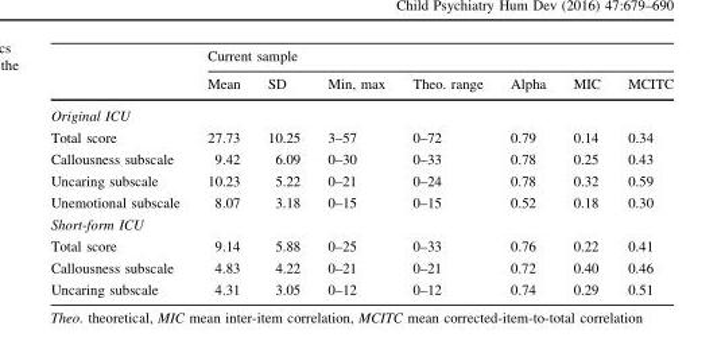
<table><thead><tr><td rowspan="2"></td><td colspan="7">Current sample</td></tr><tr><td>Mean</td><td>SD</td><td>Min, max</td><td>Theo. range</td><td>Alpha</td><td>MIC</td><td>MCITC</td></tr></thead><tbody><tr><td colspan="8">Original ICU</td></tr><tr><td>Total score</td><td>27.73</td><td>10.25</td><td>3–57</td><td>0–72</td><td>0.79</td><td>0.14</td><td>0.34</td></tr><tr><td>Callousness subscale</td><td>9.42</td><td>6.09</td><td>0–30</td><td>0–33</td><td>0.78</td><td>0.25</td><td>0.43</td></tr><tr><td>Uncaring subscale</td><td>10.23</td><td>5.22</td><td>0–21</td><td>0–24</td><td>0.78</td><td>0.32</td><td>0.59</td></tr><tr><td>Unemotional subscale</td><td>8.07</td><td>3.18</td><td>0–15</td><td>0–15</td><td>0.52</td><td>0.18</td><td>0.30</td></tr><tr><td colspan="8">Short-form ICU</td></tr><tr><td>Total score</td><td>9.14</td><td>5.88</td><td>0–25</td><td>0–33</td><td>0.76</td><td>0.22</td><td>0.41</td></tr><tr><td>Callousness subscale</td><td>4.83</td><td>4.22</td><td>0–21</td><td>0–21</td><td>0.72</td><td>0.40</td><td>0.46</td></tr><tr><td>Uncaring subscale</td><td>4.31</td><td>3.05</td><td>0–12</td><td>0–12</td><td>0.74</td><td>0.29</td><td>0.51</td></tr></tbody></table>